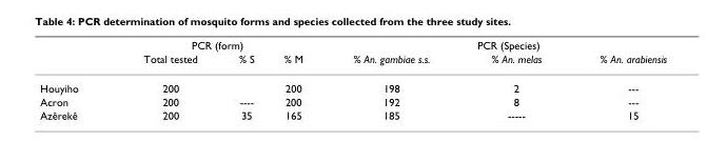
<table><thead><tr><td rowspan="2"></td><td colspan="3">PCR (form)</td><td colspan="3">PCR (Species)</td></tr><tr><td>Total tested</td><td>% S</td><td>% M</td><td>% An. gambiae s.s.</td><td>% An. melas</td><td>% An. arabiensis</td></tr></thead><tbody><tr><td>Houyiho</td><td>200</td><td></td><td>200</td><td>198</td><td>2</td><td>---</td></tr><tr><td>Acron</td><td>200</td><td>----</td><td>200</td><td>192</td><td>8</td><td>---</td></tr><tr><td>Azêrekê</td><td>200</td><td>35</td><td>165</td><td>185</td><td>-----</td><td>15</td></tr></tbody></table>